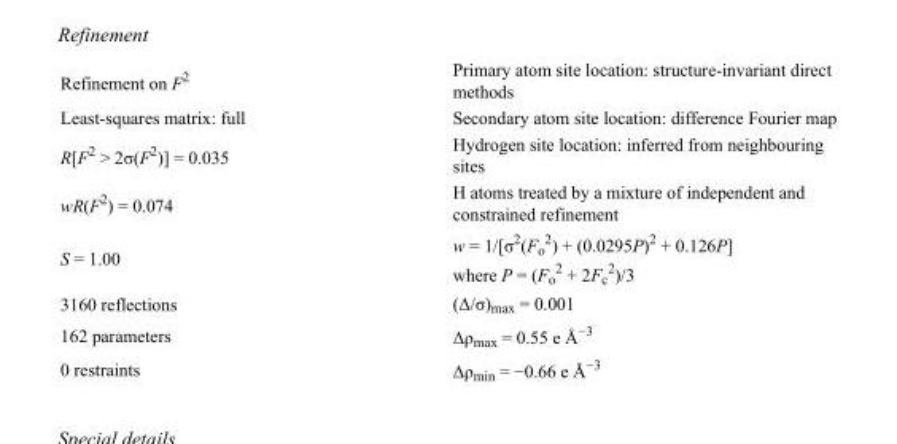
<table><tbody><tr><td>Refinement on F<sup>2</sup></td><td>Primary atom site location: structure-invariant direct methods</td></tr><tr><td>Least-squares matrix: full</td><td>Secondary atom site location: difference Fourier map</td></tr><tr><td>R[F<sup>2</sup> &gt; 2σ(F<sup>2</sup>)] = 0.035</td><td>Hydrogen site location: inferred from neighbouring sites</td></tr><tr><td>wR(F<sup>2</sup>) = 0.074</td><td>H atoms treated by a mixture of independent and constrained refinement</td></tr><tr><td>S = 1.00</td><td>w = 1/[σ<sup>2</sup>(F<sub>o</sub> <sup>2</sup>) + (0.0295P)<sup>2</sup> + 0.126P] where P = (F<sub>o</sub> <sup>2</sup> + 2F<sub>c</sub> <sup>2</sup>)/3</td></tr><tr><td>3160 reflections</td><td>(Δ/σ)<sub>max</sub> = 0.001</td></tr><tr><td>162 parameters</td><td>Δρ<sub>max</sub> = 0.55 e Å<sup>−3</sup></td></tr><tr><td>0 restraints</td><td>Δρ<sub>min</sub> = −0.66 e Å<sup>−3</sup></td></tr></tbody></table>